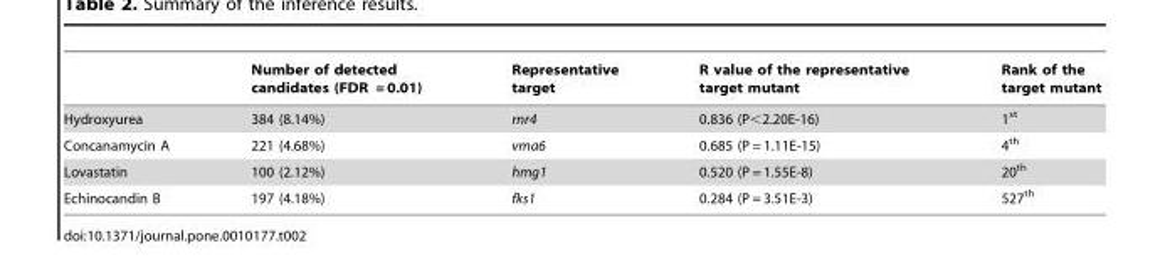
<table><thead><tr><td></td><td>Number of detected candidates (FDR = 0.01)</td><td>Representative target</td><td>R value of the representative target mutant</td><td>Rank of the target mutant</td></tr></thead><tbody><tr><td>Hydroxyurea</td><td>384 (8.14%)</td><td>rnr4</td><td>0.836 (P&lt;2.20E-16)</td><td>1<sup>st</sup></td></tr><tr><td>Concanamycin A</td><td>221 (4.68%)</td><td>vma6</td><td>0.685 (P = 1.11E-15)</td><td>4<sup>th</sup></td></tr><tr><td>Lovastatin</td><td>100 (2.12%)</td><td>hmg1</td><td>0.520 (P = 1.55E-8)</td><td>20<sup>th</sup></td></tr><tr><td>Echinocandin B</td><td>197 (4.18%)</td><td>fks1</td><td>0.284 (P = 3.51E-3)</td><td>527<sup>th</sup></td></tr></tbody></table>